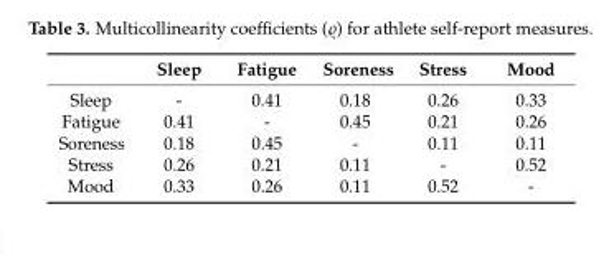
<table><thead><tr><td></td><td>Sleep</td><td>Fatigue</td><td>Soreness</td><td>Stress</td><td>Mood</td></tr></thead><tbody><tr><td>Sleep</td><td>-</td><td>0.41</td><td>0.18</td><td>0.26</td><td>0.33</td></tr><tr><td>Fatigue</td><td>0.41</td><td>-</td><td>0.45</td><td>0.21</td><td>0.26</td></tr><tr><td>Soreness</td><td>0.18</td><td>0.45</td><td>-</td><td>0.11</td><td>0.11</td></tr><tr><td>Stress</td><td>0.26</td><td>0.21</td><td>0.11</td><td>-</td><td>0.52</td></tr><tr><td>Mood</td><td>0.33</td><td>0.26</td><td>0.11</td><td>0.52</td><td>-</td></tr></tbody></table>